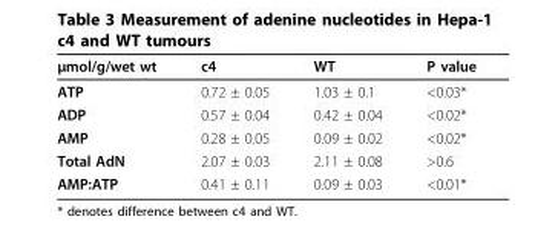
<table><thead><tr><td>μmol/g/wet wt</td><td>c4</td><td>WT</td><td>P value</td></tr></thead><tbody><tr><td>ATP</td><td>0.72 ± 0.05</td><td>1.03 ± 0.1</td><td>&lt;0.03*</td></tr><tr><td>ADP</td><td>0.57 ± 0.04</td><td>0.42 ± 0.04</td><td>&lt;0.02*</td></tr><tr><td>AMP</td><td>0.28 ± 0.05</td><td>0.09 ± 0.02</td><td>&lt;0.02*</td></tr><tr><td>Total AdN</td><td>2.07 ± 0.03</td><td>2.11 ± 0.08</td><td>&gt;0.6</td></tr><tr><td>AMP:ATP</td><td>0.41 ± 0.11</td><td>0.09 ± 0.03</td><td>&lt;0.01*</td></tr></tbody></table>